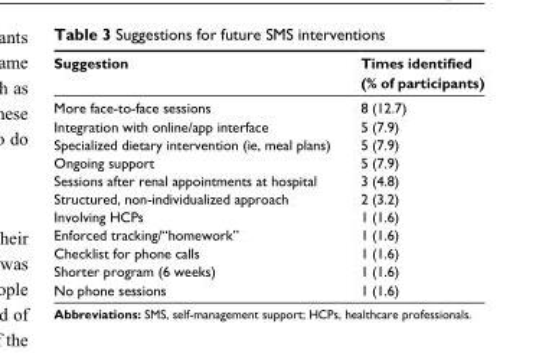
<table><thead><tr><td>Suggestion</td><td>Times identified (% of participants)</td></tr></thead><tbody><tr><td>More face-to-face sessions</td><td>8 (12.7)</td></tr><tr><td>integration with online/app interface</td><td>5 (7.9)</td></tr><tr><td>specialized dietary intervention (ie, meal plans)</td><td>5 (7.9)</td></tr><tr><td>Ongoing support</td><td>5 (7.9)</td></tr><tr><td>sessions after renal appointments at hospital</td><td>3 (4.8)</td></tr><tr><td>structured, non-individualized approach</td><td>2 (3.2)</td></tr><tr><td>involving hcPs</td><td>1 (1.6)</td></tr><tr><td>enforced tracking/“homework”</td><td>1 (1.6)</td></tr><tr><td>checklist for phone calls</td><td>1 (1.6)</td></tr><tr><td>shorter program (6 weeks)</td><td>1 (1.6)</td></tr><tr><td>no phone sessions</td><td>1 (1.6)</td></tr></tbody></table>